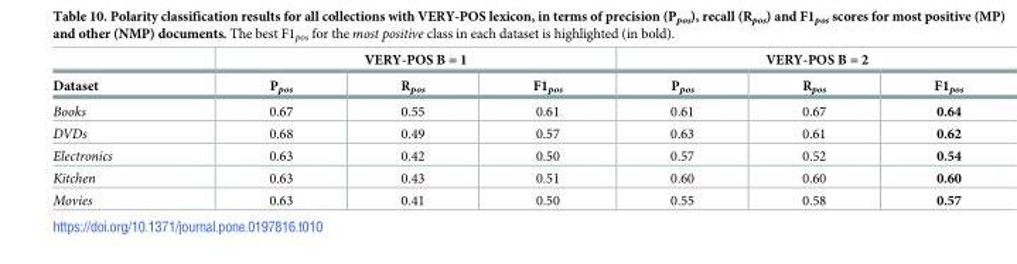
<table><thead><tr><td rowspan="2">Dataset</td><td colspan="3">VERY-POS B = 1</td><td colspan="3">VERY-POS B = 2</td></tr><tr><td>P<sub>pos</sub></td><td>R<sub>pos</sub></td><td>F1<sub>pos</sub></td><td>P<sub>pos</sub></td><td>R<sub>pos</sub></td><td>F1<sub>pos</sub></td></tr></thead><tbody><tr><td>Books</td><td>0.67</td><td>0.55</td><td>0.61</td><td>0.61</td><td>0.67</td><td>0.64</td></tr><tr><td>DVDs</td><td>0.68</td><td>0.49</td><td>0.57</td><td>0.63</td><td>0.61</td><td>0.62</td></tr><tr><td>Electronics</td><td>0.63</td><td>0.42</td><td>0.50</td><td>0.57</td><td>0.52</td><td>0.54</td></tr><tr><td>Kitchen</td><td>0.63</td><td>0.43</td><td>0.51</td><td>0.60</td><td>0.60</td><td>0.60</td></tr><tr><td>Movies</td><td>0.63</td><td>0.41</td><td>0.50</td><td>0.55</td><td>0.58</td><td>0.57</td></tr></tbody></table>